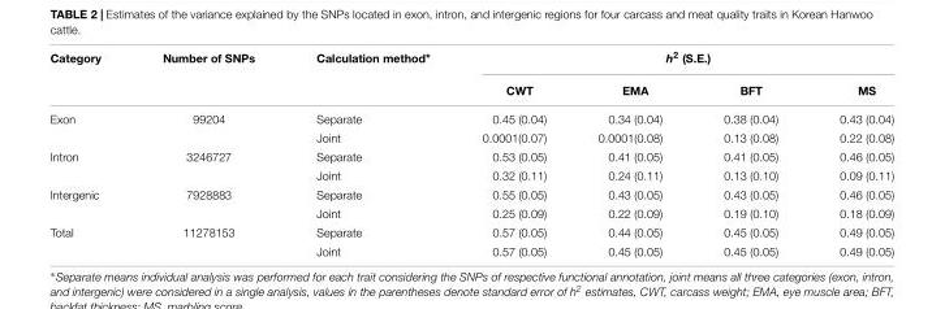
<table><thead><tr><td rowspan="2">Category</td><td rowspan="2">Number of SNPs</td><td rowspan="2">Calculation method∗</td><td colspan="4">h<sup>2</sup> (S.E.)</td></tr><tr><td>CWT</td><td>EMA</td><td>BFT</td><td>MS</td></tr></thead><tbody><tr><td rowspan="2">Exon</td><td>99204</td><td>Separate</td><td>0.45 (0.04)</td><td>0.34 (0.04)</td><td>0.38 (0.04)</td><td>0.43 (0.04)</td></tr><tr><td></td><td>Joint</td><td>0.0001(0.07)</td><td>0.0001(0.08)</td><td>0.13 (0.08)</td><td>0.22 (0.08)</td></tr><tr><td rowspan="2">Intron</td><td>3246727</td><td>Separate</td><td>0.53 (0.05)</td><td>0.41 (0.05)</td><td>0.41 (0.05)</td><td>0.46 (0.05)</td></tr><tr><td></td><td>Joint</td><td>0.32 (0.11)</td><td>0.24 (0.11)</td><td>0.13 (0.10)</td><td>0.09 (0.11)</td></tr><tr><td rowspan="2">Intergenic</td><td>7928883</td><td>Separate</td><td>0.55 (0.05)</td><td>0.43 (0.05)</td><td>0.43 (0.05)</td><td>0.46 (0.05)</td></tr><tr><td></td><td>Joint</td><td>0.25 (0.09)</td><td>0.22 (0.09)</td><td>0.19 (0.10)</td><td>0.18 (0.09)</td></tr><tr><td rowspan="2">Total</td><td>11278153</td><td>Separate</td><td>0.57 (0.05)</td><td>0.44 (0.05)</td><td>0.45 (0.05)</td><td>0.49 (0.05)</td></tr><tr><td></td><td>Joint</td><td>0.57 (0.05)</td><td>0.45 (0.05)</td><td>0.45 (0.05)</td><td>0.49 (0.05)</td></tr></tbody></table>